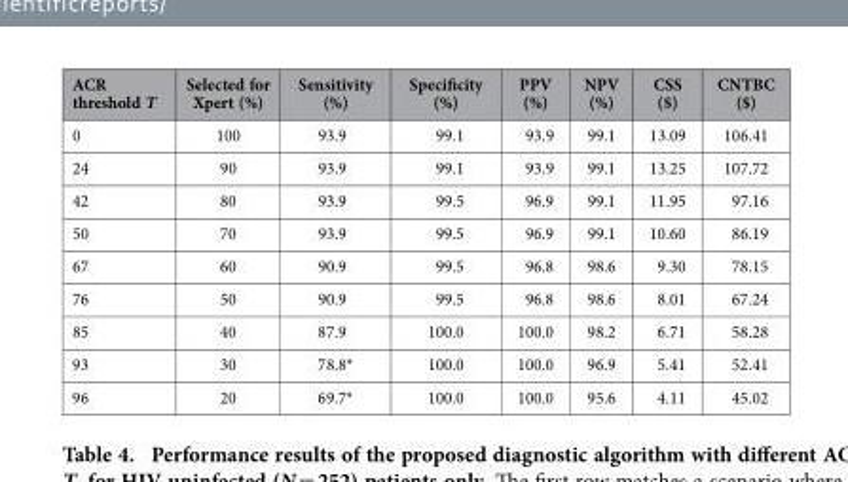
<table><thead><tr><td>ACR threshold T</td><td>Selected for Xpert (%)</td><td>Sensitivity (%)</td><td>Specificity (%)</td><td>PPV (%)</td><td>NPV (%)</td><td>CSS ($)</td><td>CNTBC ($)</td></tr></thead><tbody><tr><td>0</td><td>100</td><td>93.9</td><td>99.1</td><td>93.9</td><td>99.1</td><td>13.09</td><td>106.41</td></tr><tr><td>24</td><td>90</td><td>93.9</td><td>99.1</td><td>93.9</td><td>99.1</td><td>13.25</td><td>107.72</td></tr><tr><td>42</td><td>80</td><td>93.9</td><td>99.5</td><td>96.9</td><td>99.1</td><td>11.95</td><td>97.16</td></tr><tr><td>50</td><td>70</td><td>93.9</td><td>99.5</td><td>96.9</td><td>99.1</td><td>10.60</td><td>86.19</td></tr><tr><td>67</td><td>60</td><td>90.9</td><td>99.5</td><td>96.8</td><td>98.6</td><td>9.30</td><td>78.15</td></tr><tr><td>76</td><td>50</td><td>90.9</td><td>99.5</td><td>96.8</td><td>98.6</td><td>8.01</td><td>67.24</td></tr><tr><td>85</td><td>40</td><td>87.9</td><td>100.0</td><td>100.0</td><td>98.2</td><td>6.71</td><td>58.28</td></tr><tr><td>93</td><td>30</td><td>78.8*</td><td>100.0</td><td>100.0</td><td>96.9</td><td>5.41</td><td>52.41</td></tr><tr><td>96</td><td>20</td><td>69.7*</td><td>100.0</td><td>100.0</td><td>95.6</td><td>4.11</td><td>45.02</td></tr></tbody></table>